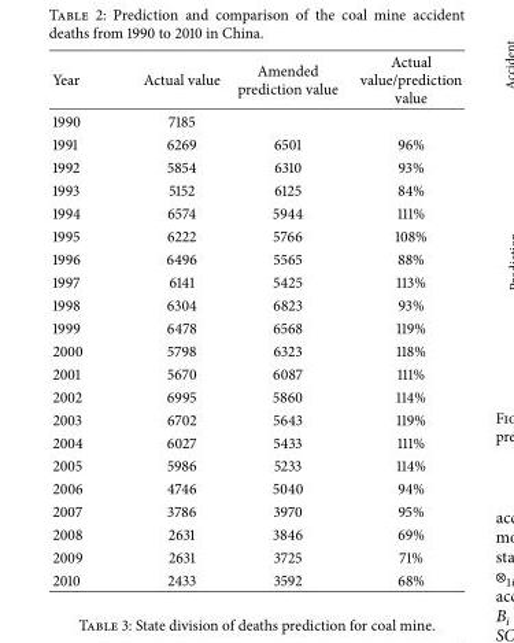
<table><thead><tr><td>Year</td><td>Actual value</td><td>Amended prediction value</td><td>Actual value/prediction value</td></tr></thead><tbody><tr><td>1990</td><td>7185</td><td></td><td></td></tr><tr><td>1991</td><td>6269</td><td>6501</td><td>96%</td></tr><tr><td>1992</td><td>5854</td><td>6310</td><td>93%</td></tr><tr><td>1993</td><td>5152</td><td>6125</td><td>84%</td></tr><tr><td>1994</td><td>6574</td><td>5944</td><td>111%</td></tr><tr><td>1995</td><td>6222</td><td>5766</td><td>108%</td></tr><tr><td>1996</td><td>6496</td><td>5565</td><td>88%</td></tr><tr><td>1997</td><td>6141</td><td>5425</td><td>113%</td></tr><tr><td>1998</td><td>6304</td><td>6823</td><td>93%</td></tr><tr><td>1999</td><td>6478</td><td>6568</td><td>119%</td></tr><tr><td>2000</td><td>5798</td><td>6323</td><td>118%</td></tr><tr><td>2001</td><td>5670</td><td>6087</td><td>111%</td></tr><tr><td>2002</td><td>6995</td><td>5860</td><td>114%</td></tr><tr><td>2003</td><td>6702</td><td>5643</td><td>119%</td></tr><tr><td>2004</td><td>6027</td><td>5433</td><td>111%</td></tr><tr><td>2005</td><td>5986</td><td>5233</td><td>114%</td></tr><tr><td>2006</td><td>4746</td><td>5040</td><td>94%</td></tr><tr><td>2007</td><td>3786</td><td>3970</td><td>95%</td></tr><tr><td>2008</td><td>2631</td><td>3846</td><td>69%</td></tr><tr><td>2009</td><td>2631</td><td>3725</td><td>71%</td></tr><tr><td>2010</td><td>2433</td><td>3592</td><td>68%</td></tr></tbody></table>